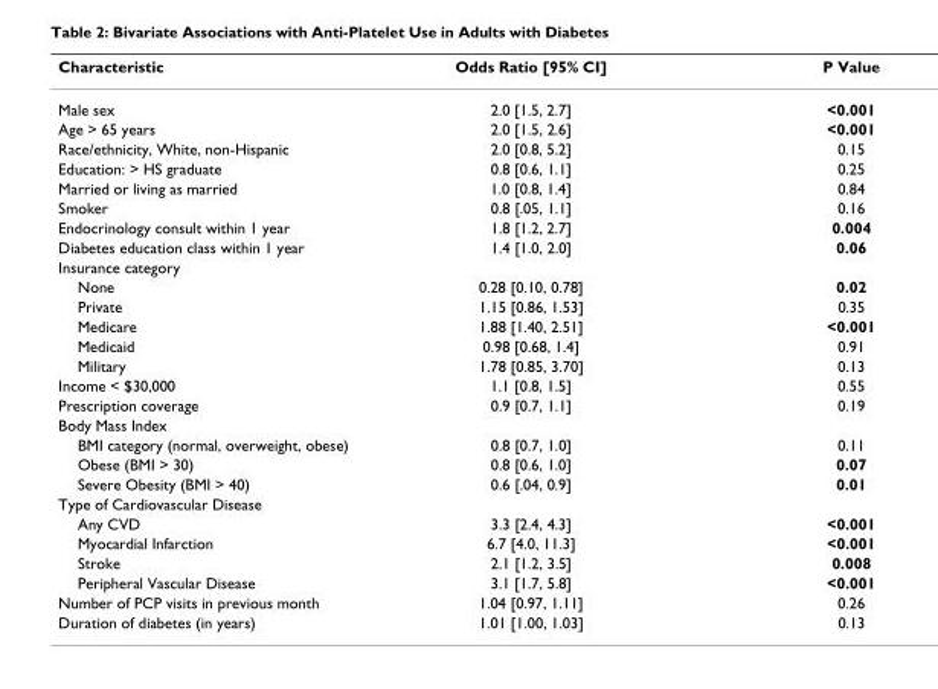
<table><thead><tr><td>Characteristic</td><td>Odds Ratio [95% CI]</td><td>P Value</td></tr></thead><tbody><tr><td>Male sex</td><td>2.0 [1.5, 2.7]</td><td>&lt;0.001</td></tr><tr><td>Age &gt; 65 years</td><td>2.0 [1.5, 2.6]</td><td>&lt;0.001</td></tr><tr><td>Race/ethnicity, White, non-Hispanic</td><td>2.0 [0.8, 5.2]</td><td>0.15</td></tr><tr><td>Education: &gt; HS graduate</td><td>0.8 [0.6, 1.1]</td><td>0.25</td></tr><tr><td>Married or living as married</td><td>1.0 [0.8, 1.4]</td><td>0.84</td></tr><tr><td>Smoker</td><td>0.8 [.05, 1.1]</td><td>0.16</td></tr><tr><td>Endocrinology consult within 1 year</td><td>1.8 [1.2, 2.7]</td><td>0.004</td></tr><tr><td>Diabetes education class within 1 year</td><td>1.4 [1.0, 2.0]</td><td>0.06</td></tr><tr><td colspan="3">Insurance category</td></tr><tr><td>None</td><td>0.28 [0.10, 0.78]</td><td>0.02</td></tr><tr><td>Private</td><td>1.15 [0.86, 1.53]</td><td>0.35</td></tr><tr><td>Medicare</td><td>1.88 [1.40, 2.51]</td><td>&lt;0.001</td></tr><tr><td>Medicaid</td><td>0.98 [0.68, 1.4]</td><td>0.91</td></tr><tr><td>Military</td><td>1.78 [0.85, 3.70]</td><td>0.13</td></tr><tr><td>Income &lt; $30,000</td><td>1.1 [0.8, 1.5]</td><td>0.55</td></tr><tr><td>Prescription coverage</td><td>0.9 [0.7, 1.1]</td><td>0.19</td></tr><tr><td colspan="3">Body Mass Index</td></tr><tr><td>BMI category (normal, overweight, obese)</td><td>0.8 [0.7, 1.0]</td><td>0.11</td></tr><tr><td>Obese (BMI &gt; 30)</td><td>0.8 [0.6, 1.0]</td><td>0.07</td></tr><tr><td>Severe Obesity (BMI &gt; 40)</td><td>0.6 [.04, 0.9]</td><td>0.01</td></tr><tr><td colspan="3">Type of Cardiovascular Disease</td></tr><tr><td>Any CVD</td><td>3.3 [2.4, 4.3]</td><td>&lt;0.001</td></tr><tr><td>Myocardial Infarction</td><td>6.7 [4.0, 11.3]</td><td>&lt;0.001</td></tr><tr><td>Stroke</td><td>2.1 [1.2, 3.5]</td><td>0.008</td></tr><tr><td>Peripheral Vascular Disease</td><td>3.1 [1.7, 5.8]</td><td>&lt;0.001</td></tr><tr><td>Number of PCP visits in previous month</td><td>1.04 [0.97, 1.11]</td><td>0.26</td></tr><tr><td>Duration of diabetes (in years)</td><td>1.01 [1.00, 1.03]</td><td>0.13</td></tr></tbody></table>